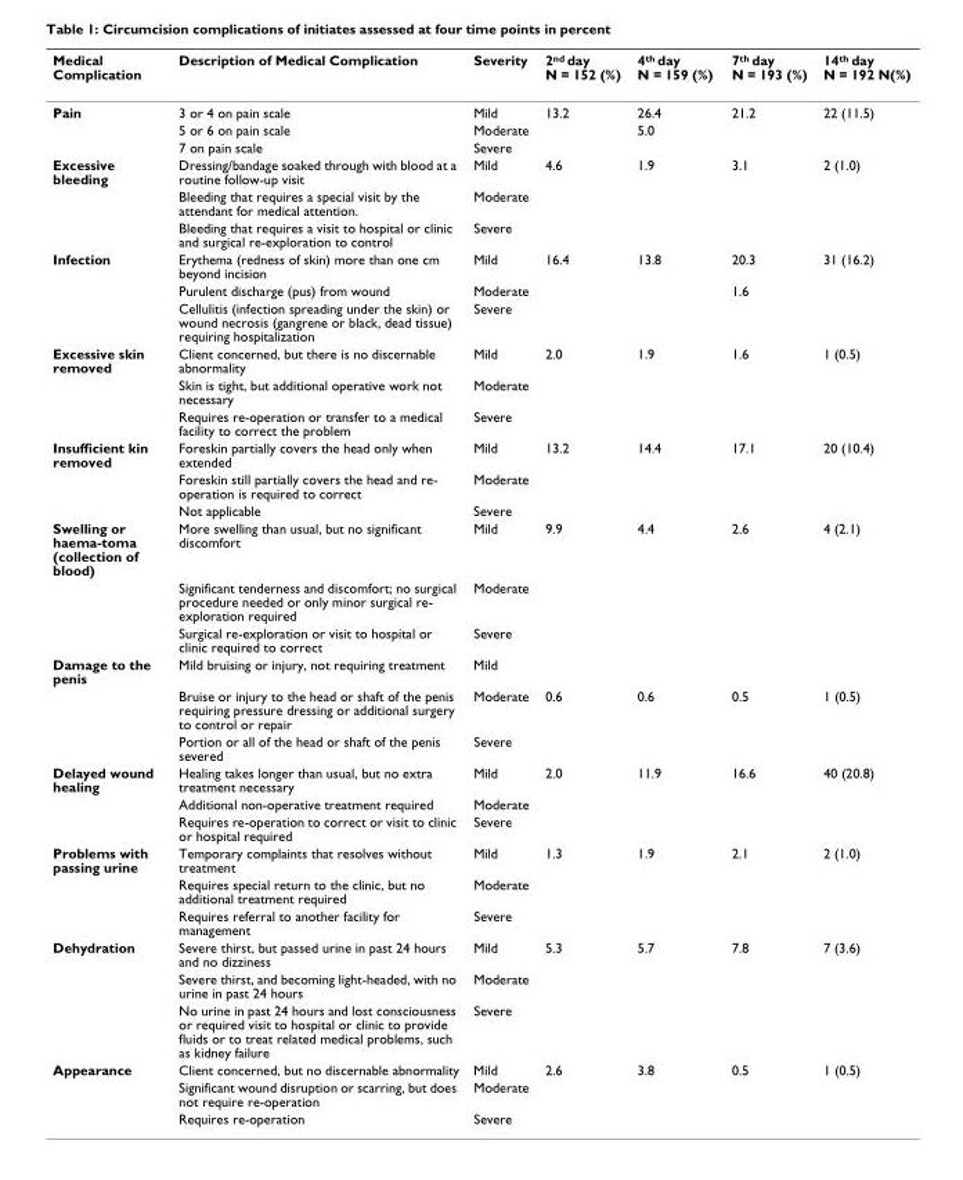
<table><thead><tr><td>Medical Complication</td><td>Description of Medical Complication</td><td>Severity</td><td>2<sup>nd</sup> day N = 152 (%)</td><td>4<sup>th</sup> day N = 159 (%)</td><td>7<sup>th</sup> day N = 193 (%)</td><td>14<sup>th</sup> day N = 192 N(%)</td></tr></thead><tbody><tr><td rowspan="3">Pain</td><td>3 or 4 on pain scale</td><td>Mild</td><td>13.2</td><td>26.4</td><td>21.2</td><td>22 (11.5)</td></tr><tr><td>5 or 6 on pain scale</td><td>Moderate</td><td></td><td>5.0</td><td></td><td></td></tr><tr><td>7 on pain scale</td><td>Severe</td><td></td><td></td><td></td><td></td></tr><tr><td rowspan="3">Excessive bleeding</td><td>Dressing/bandage soaked through with blood at a routine follow-up visit</td><td>Mild</td><td>4.6</td><td>1.9</td><td>3.1</td><td>2 (1.0)</td></tr><tr><td>Bleeding that requires a special visit by the attendant for medical attention.</td><td>Moderate</td><td></td><td></td><td></td><td></td></tr><tr><td>Bleeding that requires a visit to hospital or clinic and surgical re-exploration to control</td><td>Severe</td><td></td><td></td><td></td><td></td></tr><tr><td rowspan="3">Infection</td><td>Erythema (redness of skin) more than one cm beyond incision</td><td>Mild</td><td>16.4</td><td>13.8</td><td>20.3</td><td>31 (16.2)</td></tr><tr><td>Purulent discharge (pus) from wound</td><td>Moderate</td><td></td><td></td><td>1.6</td><td></td></tr><tr><td>Cellulitis (infection spreading under the skin) or wound necrosis (gangrene or black, dead tissue) requiring hospitalization</td><td>Severe</td><td></td><td></td><td></td><td></td></tr><tr><td rowspan="3">Excessive skin removed</td><td>Client concerned, but there is no discernable abnormality</td><td>Mild</td><td>2.0</td><td>1.9</td><td>1.6</td><td>1 (0.5)</td></tr><tr><td>Skin is tight, but additional operative work not necessary</td><td>Moderate</td><td></td><td></td><td></td><td></td></tr><tr><td>Requires re-operation or transfer to a medical facility to correct the problem</td><td>Severe</td><td></td><td></td><td></td><td></td></tr><tr><td rowspan="3">Insufficient kin removed</td><td>Foreskin partially covers the head only when extended</td><td>Mild</td><td>13.2</td><td>14.4</td><td>17.1</td><td>20 (10.4)</td></tr><tr><td>Foreskin still partially covers the head and re- operation is required to correct</td><td>Moderate</td><td></td><td></td><td></td><td></td></tr><tr><td>Not applicable</td><td>Severe</td><td></td><td></td><td></td><td></td></tr><tr><td rowspan="3">Swelling or haema-toma (collection of blood)</td><td>More swelling than usual, but no significant discomfort</td><td>Mild</td><td>9.9</td><td>4.4</td><td>2.6</td><td>4 (2.1)</td></tr><tr><td>Significant tenderness and discomfort; no surgical procedure needed or only minor surgical re- exploration required</td><td>Moderate</td><td></td><td></td><td></td><td></td></tr><tr><td>Surgical re-exploration or visit to hospital or clinic required to correct</td><td>Severe</td><td></td><td></td><td></td><td></td></tr><tr><td rowspan="3">Damage to the penis</td><td>Mild bruising or injury, not requiring treatment</td><td>Mild</td><td></td><td></td><td></td><td></td></tr><tr><td>Bruise or injury to the head or shaft of the penis requiring pressure dressing or additional surgery to control or repair</td><td>Moderate</td><td>0.6</td><td>0.6</td><td>0.5</td><td>1 (0.5)</td></tr><tr><td>Portion or all of the head or shaft of the penis severed</td><td>Severe</td><td></td><td></td><td></td><td></td></tr><tr><td rowspan="3">Delayed wound healing</td><td>Healing takes longer than usual, but no extra treatment necessary</td><td>Mild</td><td>2.0</td><td>11.9</td><td>16.6</td><td>40 (20.8)</td></tr><tr><td>Additional non-operative treatment required</td><td>Moderate</td><td></td><td></td><td></td><td></td></tr><tr><td>Requires re-operation to correct or visit to clinic or hospital required</td><td>Severe</td><td></td><td></td><td></td><td></td></tr><tr><td rowspan="3">Problems with passing urine</td><td>Temporary complaints that resolves without treatment</td><td>Mild</td><td>1.3</td><td>1.9</td><td>2.1</td><td>2 (1.0)</td></tr><tr><td>Requires special return to the clinic, but no additional treatment required</td><td>Moderate</td><td></td><td></td><td></td><td></td></tr><tr><td>Requires referral to another facility for management</td><td>Severe</td><td></td><td></td><td></td><td></td></tr><tr><td rowspan="3">Dehydration</td><td>Severe thirst, but passed urine in past 24 hours and no dizziness</td><td>Mild</td><td>5.3</td><td>5.7</td><td>7.8</td><td>7 (3.6)</td></tr><tr><td>Severe thirst, and becoming light-headed, with no urine in past 24 hours</td><td>Moderate</td><td></td><td></td><td></td><td></td></tr><tr><td>No urine in past 24 hours and lost consciousness or required visit to hospital or clinic to provide fluids or to treat related medical problems, such as kidney failure</td><td>Severe</td><td></td><td></td><td></td><td></td></tr><tr><td rowspan="3">Appearance</td><td>Client concerned, but no discernable abnormality</td><td>Mild</td><td>2.6</td><td>3.8</td><td>0.5</td><td>1 (0.5)</td></tr><tr><td>Significant wound disruption or scarring, but does not require re-operation</td><td>Moderate</td><td></td><td></td><td></td><td></td></tr><tr><td>Requires re-operation</td><td>Severe</td><td></td><td></td><td></td><td></td></tr></tbody></table>